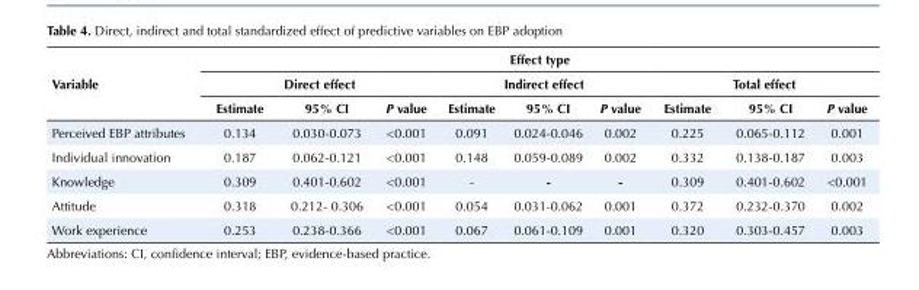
<table><tbody><tr><td rowspan="3">Variable</td><td colspan="9">Effect type</td></tr><tr><td colspan="3">Direct effect</td><td colspan="3">Indirect effect</td><td colspan="3">Total effect</td></tr><tr><td>Estimate</td><td>95% CI</td><td>P value</td><td>Estimate</td><td>95% CI</td><td>P value</td><td>Estimate</td><td>95% CI</td><td>P value</td></tr><tr><td>Perceived EBP attributes</td><td>0.134</td><td>0.030-0.073</td><td>&lt;0.001</td><td>0.091</td><td>0.024-0.046</td><td>0.002</td><td>0.225</td><td>0.065-0.112</td><td>0.001</td></tr><tr><td>Individual innovation</td><td>0.187</td><td>0.062-0.121</td><td>&lt;0.001</td><td>0.148</td><td>0.059-0.089</td><td>0.002</td><td>0.332</td><td>0.138-0.187</td><td>0.003</td></tr><tr><td>Knowledge</td><td>0.309</td><td>0.401-0.602</td><td>&lt;0.001</td><td>-</td><td>-</td><td>-</td><td>0.309</td><td>0.401-0.602</td><td>&lt;0.001</td></tr><tr><td>Attitude</td><td>0.318</td><td>0.212- 0.306</td><td>&lt;0.001</td><td>0.054</td><td>0.031-0.062</td><td>0.001</td><td>0.372</td><td>0.232-0.370</td><td>0.002</td></tr><tr><td>Work experience</td><td>0.253</td><td>0.238-0.366</td><td>&lt;0.001</td><td>0.067</td><td>0.061-0.109</td><td>0.001</td><td>0.320</td><td>0.303-0.457</td><td>0.003</td></tr></tbody></table>